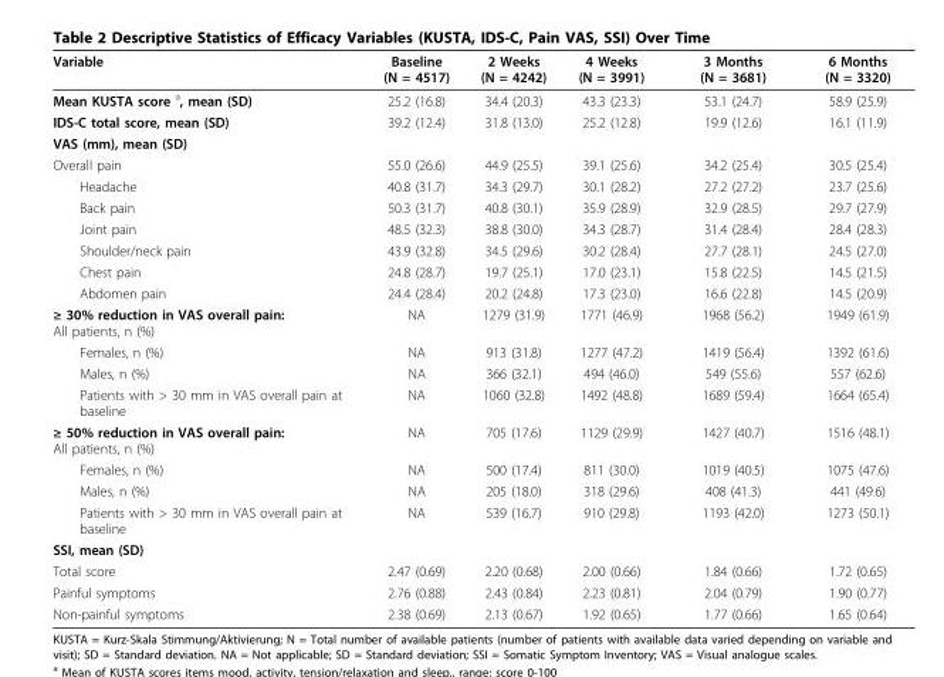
<table><thead><tr><td>Variable</td><td>Baseline (N = 4517)</td><td>2 Weeks (N = 4242)</td><td>4 Weeks (N = 3991)</td><td>3 Months (N = 3681)</td><td>6 Months (N = 3320)</td></tr></thead><tbody><tr><td>Mean KUSTA score <sup>a</sup>, mean (SD)</td><td>25.2 (16.8)</td><td>34.4 (20.3)</td><td>43.3 (23.3)</td><td>53.1 (24.7)</td><td>58.9 (25.9)</td></tr><tr><td>IDS-C total score, mean (SD)</td><td>39.2 (12.4)</td><td>31.8 (13.0)</td><td>25.2 (12.8)</td><td>19.9 (12.6)</td><td>16.1 (11.9)</td></tr><tr><td colspan="6">VAS (mm), mean (SD)</td></tr><tr><td>Overall pain</td><td>55.0 (26.6)</td><td>44.9 (25.5)</td><td>39.1 (25.6)</td><td>34.2 (25.4)</td><td>30.5 (25.4)</td></tr><tr><td>Headache</td><td>40.8 (31.7)</td><td>34.3 (29.7)</td><td>30.1 (28.2)</td><td>27.2 (27.2)</td><td>23.7 (25.6)</td></tr><tr><td>Back pain</td><td>50.3 (31.7)</td><td>40.8 (30.1)</td><td>35.9 (28.9)</td><td>32.9 (28.5)</td><td>29.7 (27.9)</td></tr><tr><td>Joint pain</td><td>48.5 (32.3)</td><td>38.8 (30.0)</td><td>34.3 (28.7)</td><td>31.4 (28.4)</td><td>28.4 (28.3)</td></tr><tr><td>Shoulder/neck pain</td><td>43.9 (32.8)</td><td>34.5 (29.6)</td><td>30.2 (28.4)</td><td>27.7 (28.1)</td><td>24.5 (27.0)</td></tr><tr><td>Chest pain</td><td>24.8 (28.7)</td><td>19.7 (25.1)</td><td>17.0 (23.1)</td><td>15.8 (22.5)</td><td>14.5 (21.5)</td></tr><tr><td>Abdomen pain</td><td>24.4 (28.4)</td><td>20.2 (24.8)</td><td>17.3 (23.0)</td><td>16.6 (22.8)</td><td>14.5 (20.9)</td></tr><tr><td>≥ 30% reduction in VAS overall pain: All patients, n (%)</td><td>NA</td><td>1279 (31.9)</td><td>1771 (46.9)</td><td>1968 (56.2)</td><td>1949 (61.9)</td></tr><tr><td>Females, n (%)</td><td>NA</td><td>913 (31.8)</td><td>1277 (47.2)</td><td>1419 (56.4)</td><td>1392 (61.6)</td></tr><tr><td>Males, n (%)</td><td>NA</td><td>366 (32.1)</td><td>494 (46.0)</td><td>549 (55.6)</td><td>557 (62.6)</td></tr><tr><td>Patients with &gt; 30 mm in VAS overall pain at baseline</td><td>NA</td><td>1060 (32.8)</td><td>1492 (48.8)</td><td>1689 (59.4)</td><td>1664 (65.4)</td></tr><tr><td>≥ 50% reduction in VAS overall pain: All patients, n (%)</td><td>NA</td><td>705 (17.6)</td><td>1129 (29.9)</td><td>1427 (40.7)</td><td>1516 (48.1)</td></tr><tr><td>Females, n (%)</td><td>NA</td><td>500 (17.4)</td><td>811 (30.0)</td><td>1019 (40.5)</td><td>1075 (47.6)</td></tr><tr><td>Males, n (%)</td><td>NA</td><td>205 (18.0)</td><td>318 (29.6)</td><td>408 (41.3)</td><td>441 (49.6)</td></tr><tr><td>Patients with &gt; 30 mm in VAS overall pain at baseline</td><td>NA</td><td>539 (16.7)</td><td>910 (29.8)</td><td>1193 (42.0)</td><td>1273 (50.1)</td></tr><tr><td colspan="6">SSI, mean (SD)</td></tr><tr><td>Total score</td><td>2.47 (0.69)</td><td>2.20 (0.68)</td><td>2.00 (0.66)</td><td>1.84 (0.66)</td><td>1.72 (0.65)</td></tr><tr><td>Painful symptoms</td><td>2.76 (0.88)</td><td>2.43 (0.84)</td><td>2.23 (0.81)</td><td>2.04 (0.79)</td><td>1.90 (0.77)</td></tr><tr><td>Non-painful symptoms</td><td>2.38 (0.69)</td><td>2.13 (0.67)</td><td>1.92 (0.65)</td><td>1.77 (0.66)</td><td>1.65 (0.64)</td></tr></tbody></table>